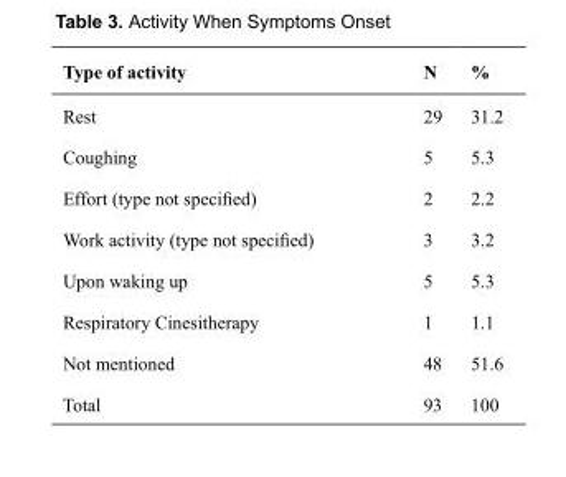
<table><thead><tr><td>Type of activity</td><td>N</td><td>%</td></tr></thead><tbody><tr><td>Rest</td><td>29</td><td>31.2</td></tr><tr><td>Coughing</td><td>5</td><td>5.3</td></tr><tr><td>Effort (type not specified)</td><td>2</td><td>2.2</td></tr><tr><td>Work activity (type not specified)</td><td>3</td><td>3.2</td></tr><tr><td>Upon waking up</td><td>5</td><td>5.3</td></tr><tr><td>Respiratory Cinesitherapy</td><td>1</td><td>1.1</td></tr><tr><td>Not mentioned</td><td>48</td><td>51.6</td></tr><tr><td>Total</td><td>93</td><td>100</td></tr></tbody></table>